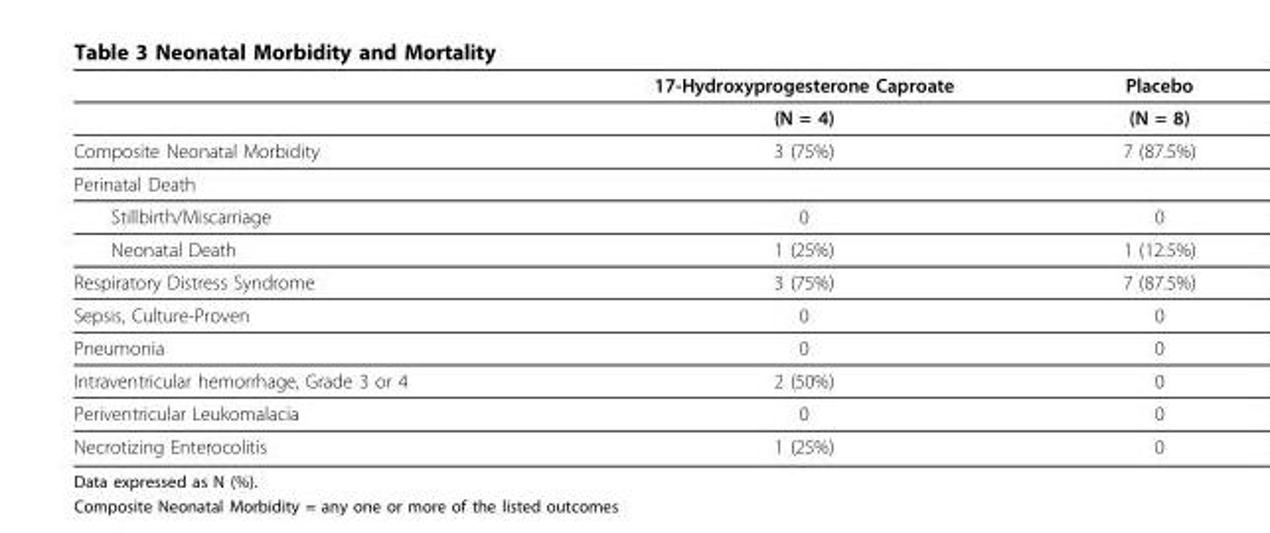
<table><thead><tr><td></td><td>17-Hydroxyprogesterone Caproate</td><td>Placebo</td></tr></thead><tbody><tr><td></td><td>(N = 4)</td><td>(N = 8)</td></tr><tr><td>Composite Neonatal Morbidity</td><td>3 (75%)</td><td>7 (87.5%)</td></tr><tr><td colspan="3">Perinatal Death</td></tr><tr><td>Stillbirth/Miscarriage</td><td>0</td><td>0</td></tr><tr><td>Neonatal Death</td><td>1 (25%)</td><td>1 (12.5%)</td></tr><tr><td>Respiratory Distress Syndrome</td><td>3 (75%)</td><td>7 (87.5%)</td></tr><tr><td>Sepsis, Culture-Proven</td><td>0</td><td>0</td></tr><tr><td>Pneumonia</td><td>0</td><td>0</td></tr><tr><td>Intraventricular hemorrhage, Grade 3 or 4</td><td>2 (50%)</td><td>0</td></tr><tr><td>Periventricular Leukomalacia</td><td>0</td><td>0</td></tr><tr><td>Necrotizing Enterocolitis</td><td>1 (25%)</td><td>0</td></tr></tbody></table>